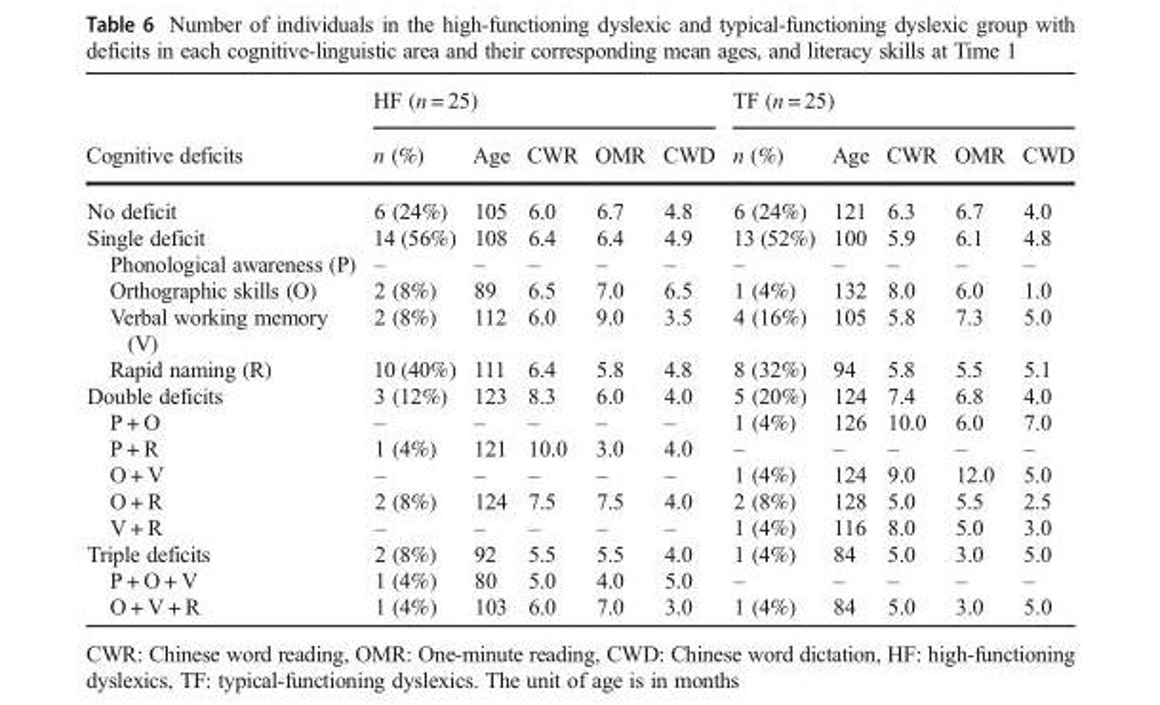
<table><thead><tr><td rowspan="2">Cognitive deficits</td><td colspan="5">HF (n = 25)</td><td colspan="5">TF (n = 25)</td></tr><tr><td>n (%)</td><td>Age</td><td>CWR</td><td>OMR</td><td>CWD</td><td>n (%)</td><td>Age</td><td>CWR</td><td>OMR</td><td>CWD</td></tr></thead><tbody><tr><td>No deficit</td><td>6 (24%)</td><td>105</td><td>6.0</td><td>6.7</td><td>4.8</td><td>6 (24%)</td><td>121</td><td>6.3</td><td>6.7</td><td>4.0</td></tr><tr><td>Single deficit</td><td>14 (56%)</td><td>108</td><td>6.4</td><td>6.4</td><td>4.9</td><td>13 (52%)</td><td>100</td><td>5.9</td><td>6.1</td><td>4.8</td></tr><tr><td>Phonological awareness (P)</td><td>–</td><td>–</td><td>–</td><td>–</td><td>–</td><td>–</td><td>–</td><td>–</td><td>–</td><td>–</td></tr><tr><td>Orthographic skills (O)</td><td>2 (8%)</td><td>89</td><td>6.5</td><td>7.0</td><td>6.5</td><td>1 (4%)</td><td>132</td><td>8.0</td><td>6.0</td><td>1.0</td></tr><tr><td>Verbal working memory (V)</td><td>2 (8%)</td><td>112</td><td>6.0</td><td>9.0</td><td>3.5</td><td>4 (16%)</td><td>105</td><td>5.8</td><td>7.3</td><td>5.0</td></tr><tr><td>Rapid naming (R)</td><td>10 (40%)</td><td>111</td><td>6.4</td><td>5.8</td><td>4.8</td><td>8 (32%)</td><td>94</td><td>5.8</td><td>5.5</td><td>5.1</td></tr><tr><td>Double deficits</td><td>3 (12%)</td><td>123</td><td>8.3</td><td>6.0</td><td>4.0</td><td>5 (20%)</td><td>124</td><td>7.4</td><td>6.8</td><td>4.0</td></tr><tr><td>P + O</td><td>–</td><td>–</td><td>–</td><td>–</td><td>–</td><td>1 (4%)</td><td>126</td><td>10.0</td><td>6.0</td><td>7.0</td></tr><tr><td>P + R</td><td>1 (4%)</td><td>121</td><td>10.0</td><td>3.0</td><td>4.0</td><td>–</td><td>–</td><td>–</td><td>–</td><td>–</td></tr><tr><td>O + V</td><td>–</td><td>–</td><td>–</td><td>–</td><td>–</td><td>1 (4%)</td><td>124</td><td>9.0</td><td>12.0</td><td>5.0</td></tr><tr><td>O + R</td><td>2 (8%)</td><td>124</td><td>7.5</td><td>7.5</td><td>4.0</td><td>2 (8%)</td><td>128</td><td>5.0</td><td>5.5</td><td>2.5</td></tr><tr><td>V + R</td><td>–</td><td>–</td><td>–</td><td>–</td><td>–</td><td>1 (4%)</td><td>116</td><td>8.0</td><td>5.0</td><td>3.0</td></tr><tr><td>Triple deficits</td><td>2 (8%)</td><td>92</td><td>5.5</td><td>5.5</td><td>4.0</td><td>1 (4%)</td><td>84</td><td>5.0</td><td>3.0</td><td>5.0</td></tr><tr><td>P + O + V</td><td>1 (4%)</td><td>80</td><td>5.0</td><td>4.0</td><td>5.0</td><td>–</td><td>–</td><td>–</td><td>–</td><td>–</td></tr><tr><td>O + V + R</td><td>1 (4%)</td><td>103</td><td>6.0</td><td>7.0</td><td>3.0</td><td>1 (4%)</td><td>84</td><td>5.0</td><td>3.0</td><td>5.0</td></tr></tbody></table>